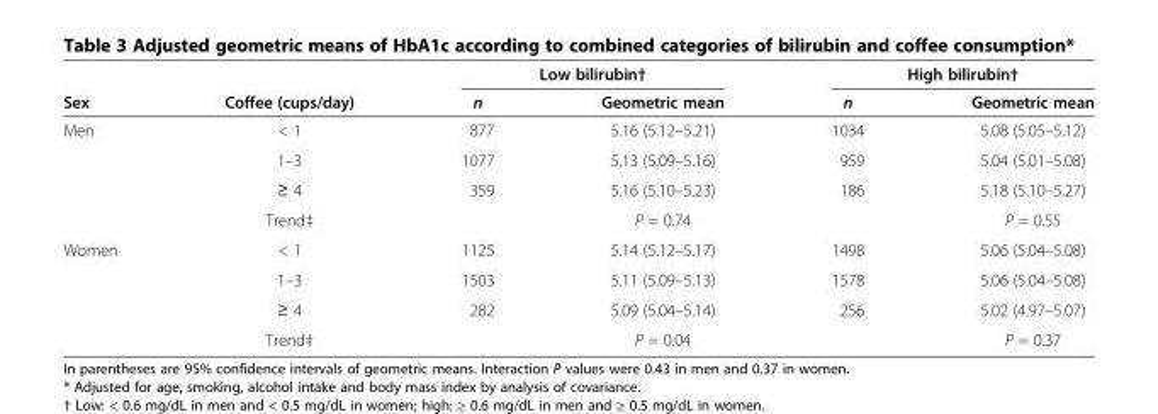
<table><thead><tr><td rowspan="2">Sex</td><td rowspan="2">Coffee (cups/day)</td><td colspan="2">Low bilirubin†</td><td colspan="2">High bilirubin†</td></tr><tr><td>n</td><td>Geometric mean</td><td>n</td><td>Geometric mean</td></tr></thead><tbody><tr><td rowspan="4">Men</td><td>&lt; 1</td><td>877</td><td>5.16 (5.12–5.21)</td><td>1034</td><td>5.08 (5.05–5.12)</td></tr><tr><td>1–3</td><td>1077</td><td>5.13 (5.09–5.16)</td><td>959</td><td>5.04 (5.01–5.08)</td></tr><tr><td>≥ 4</td><td>359</td><td>5.16 (5.10–5.23)</td><td>186</td><td>5.18 (5.10–5.27)</td></tr><tr><td>Trend‡</td><td></td><td>P = 0.74</td><td></td><td>P = 0.55</td></tr><tr><td rowspan="4">Women</td><td>&lt; 1</td><td>1125</td><td>5.14 (5.12–5.17)</td><td>1498</td><td>5.06 (5.04–5.08)</td></tr><tr><td>1–3</td><td>1503</td><td>5.11 (5.09–5.13)</td><td>1578</td><td>5.06 (5.04–5.08)</td></tr><tr><td>≥ 4</td><td>282</td><td>5.09 (5.04–5.14)</td><td>256</td><td>5.02 (4.97–5.07)</td></tr><tr><td>Trend‡</td><td></td><td>P = 0.04</td><td></td><td>P = 0.37</td></tr></tbody></table>